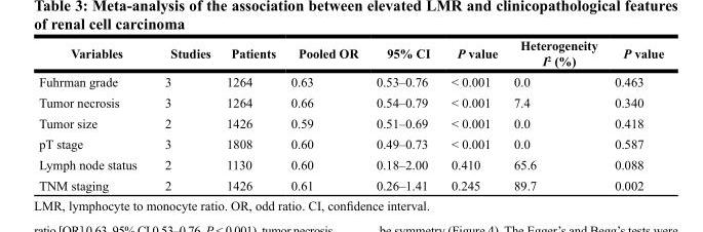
<table><thead><tr><td>Variables</td><td>Studies</td><td>Patients</td><td>Pooled OR</td><td>95% CI</td><td>P value</td><td>Heterogeneity I<sup>2</sup> (%)</td><td>P value</td></tr></thead><tbody><tr><td>Fuhrman grade</td><td>3</td><td>1264</td><td>0.63</td><td>0.53–0.76</td><td>&lt; 0.001</td><td>0.0</td><td>0.463</td></tr><tr><td>Tumor necrosis</td><td>3</td><td>1264</td><td>0.66</td><td>0.54–0.79</td><td>&lt; 0.001</td><td>7.4</td><td>0.340</td></tr><tr><td>Tumor size</td><td>2</td><td>1426</td><td>0.59</td><td>0.51–0.69</td><td>&lt; 0.001</td><td>0.0</td><td>0.418</td></tr><tr><td>pT stage</td><td>3</td><td>1808</td><td>0.60</td><td>0.49–0.73</td><td>&lt; 0.001</td><td>0.0</td><td>0.587</td></tr><tr><td>Lymph node status</td><td>2</td><td>1130</td><td>0.60</td><td>0.18–2.00</td><td>0.410</td><td>65.6</td><td>0.088</td></tr><tr><td>TNM staging</td><td>2</td><td>1426</td><td>0.61</td><td>0.26–1.41</td><td>0.245</td><td>89.7</td><td>0.002</td></tr></tbody></table>